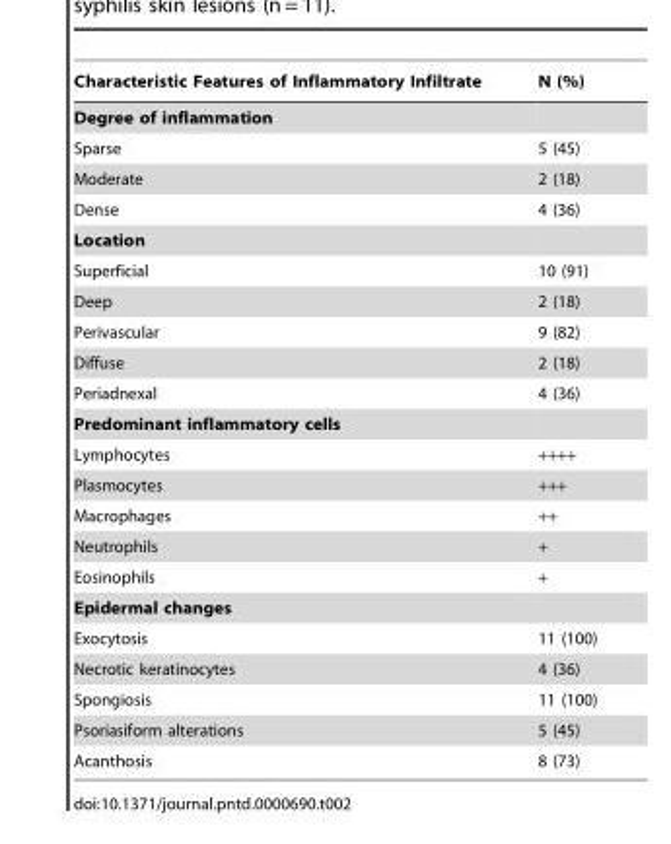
<table><thead><tr><td>Characteristic Features of Inflammatory Infiltrate</td><td>N (%)</td></tr></thead><tbody><tr><td colspan="2">Degree of inflammation</td></tr><tr><td>Sparse</td><td>5 (45)</td></tr><tr><td>Moderate</td><td>2 (18)</td></tr><tr><td>Dense</td><td>4 (36)</td></tr><tr><td colspan="2">Location</td></tr><tr><td>Superficial</td><td>10 (91)</td></tr><tr><td>Deep</td><td>2 (18)</td></tr><tr><td>Perivascular</td><td>9 (82)</td></tr><tr><td>Diffuse</td><td>2 (18)</td></tr><tr><td>Periadnexal</td><td>4 (36)</td></tr><tr><td colspan="2">Predominant inflammatory cells</td></tr><tr><td>Lymphocytes</td><td>++++</td></tr><tr><td>Plasmocytes</td><td>+++</td></tr><tr><td>Macrophages</td><td>++</td></tr><tr><td>Neutrophils</td><td>+</td></tr><tr><td>Eosinophils</td><td>+</td></tr><tr><td colspan="2">Epidermal changes</td></tr><tr><td>Exocytosis</td><td>11 (100)</td></tr><tr><td>Necrotic keratinocytes</td><td>4 (36)</td></tr><tr><td>Spongiosis</td><td>11 (100)</td></tr><tr><td>Psoriasiform alterations</td><td>5 (45)</td></tr><tr><td>Acanthosis</td><td>8 (73)</td></tr></tbody></table>